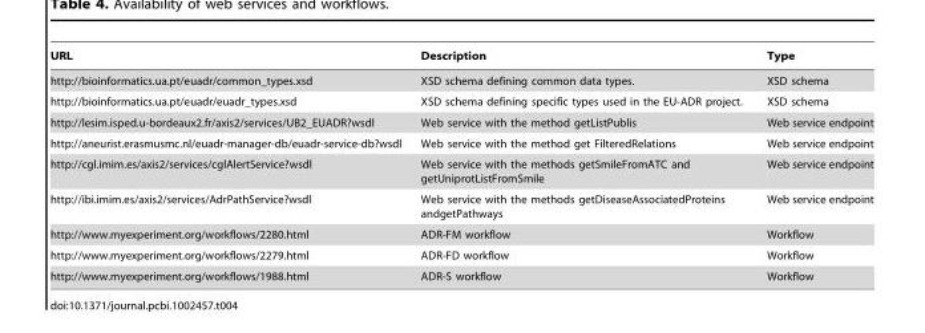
<table><thead><tr><td>URL</td><td>Description</td><td>Type</td></tr></thead><tbody><tr><td>http://bioinformatics.ua.pt/euadr/common_types.xsd</td><td>XSD schema defining common data types.</td><td>XSD schema</td></tr><tr><td>http://bioinformatics.ua.pt/euadr/euadr_types.xsd</td><td>XSD schema defining specific types used in the EU-ADR project.</td><td>XSD schema</td></tr><tr><td>http://lesim.isped.u-bordeaux2.fr/axis2/services/UB2_EUADR?wsdl</td><td>Web service with the method getListPublis</td><td>Web service endpoint</td></tr><tr><td>http://aneurist.erasmusmc.nl/euadr-manager-db/euadr-service-db?wsdl</td><td>Web service with the method get FilteredRelations</td><td>Web service endpoint</td></tr><tr><td>http://cgl.imim.es/axis2/services/cglAlertService?wsdl</td><td>Web service with the methods getSmileFromATC and getUniprotListFromSmile</td><td>Web service endpoint</td></tr><tr><td>http://ibi.imim.es/axis2/services/AdrPathService?wsdl</td><td>Web service with the methods getDiseaseAssociatedProteins andgetPathways</td><td>Web service endpoint</td></tr><tr><td>http://www.myexperiment.org/workflows/2280.html</td><td>ADR-FM workflow</td><td>Workflow</td></tr><tr><td>http://www.myexperiment.org/workflows/2279.html</td><td>ADR-FD workflow</td><td>Workflow</td></tr><tr><td>http://www.myexperiment.org/workflows/1988.html</td><td>ADR-S workflow</td><td>Workflow</td></tr></tbody></table>